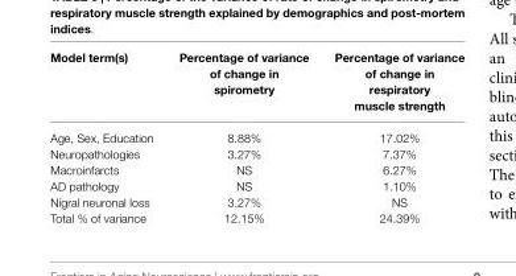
<table><thead><tr><td>Model term(s)</td><td>Percentage of variance of change in spirometry</td><td>Percentage of variance of change in respiratory muscle strength</td></tr></thead><tbody><tr><td>Age, Sex, Education</td><td>8.88%</td><td>17.02%</td></tr><tr><td>Neuropathologies</td><td>3.27%</td><td>7.37%</td></tr><tr><td>Macroinfarcts</td><td>NS</td><td>6.27%</td></tr><tr><td>AD pathology</td><td>NS</td><td>1.10%</td></tr><tr><td>Nigral neuronal loss</td><td>3.27%</td><td>NS</td></tr><tr><td>Total % of variance</td><td>12.15%</td><td>24.39%</td></tr></tbody></table>